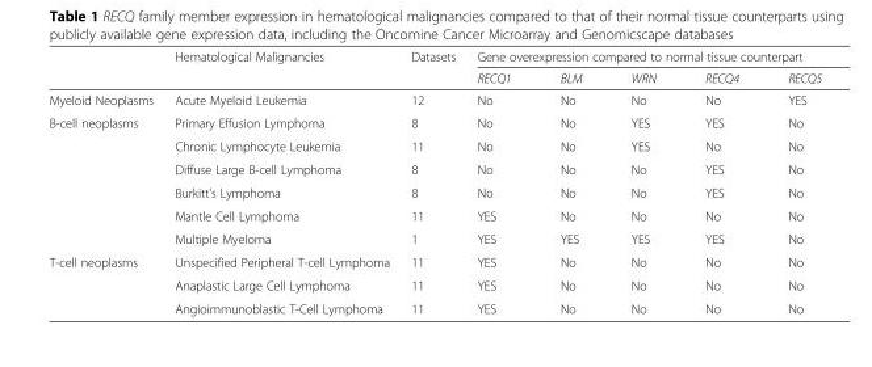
<table><thead><tr><td rowspan="2"></td><td rowspan="2">Hematological Malignancies</td><td rowspan="2">Datasets</td><td colspan="5">Gene overexpression compared to normal tissue counterpart</td></tr><tr><td>RECQ1</td><td>BLM</td><td>WRN</td><td>RECQ4</td><td>RECQ5</td></tr></thead><tbody><tr><td>Myeloid Neoplasms</td><td>Acute Myeloid Leukemia</td><td>12</td><td>No</td><td>No</td><td>No</td><td>No</td><td>YES</td></tr><tr><td rowspan="6">B-cell neoplasms</td><td>Primary Effusion Lymphoma</td><td>8</td><td>No</td><td>No</td><td>YES</td><td>YES</td><td>No</td></tr><tr><td>Chronic Lymphocyte Leukemia</td><td>11</td><td>No</td><td>No</td><td>YES</td><td>No</td><td>No</td></tr><tr><td>Diffuse Large B-cell Lymphoma</td><td>8</td><td>No</td><td>No</td><td>No</td><td>YES</td><td>No</td></tr><tr><td>Burkitt&#x27;s Lymphoma</td><td>8</td><td>No</td><td>No</td><td>No</td><td>YES</td><td>No</td></tr><tr><td>Mantle Cell Lymphoma</td><td>11</td><td>YES</td><td>No</td><td>No</td><td>No</td><td>No</td></tr><tr><td>Multiple Myeloma</td><td>1</td><td>YES</td><td>YES</td><td>YES</td><td>YES</td><td>No</td></tr><tr><td rowspan="3">T-cell neoplasms</td><td>Unspecified Peripheral T-cell Lymphoma</td><td>11</td><td>YES</td><td>No</td><td>No</td><td>No</td><td>No</td></tr><tr><td>Anaplastic Large Cell Lymphoma</td><td>11</td><td>YES</td><td>No</td><td>No</td><td>No</td><td>No</td></tr><tr><td>Angioimmunoblastic T-Cell Lymphoma</td><td>11</td><td>YES</td><td>No</td><td>No</td><td>No</td><td>No</td></tr></tbody></table>